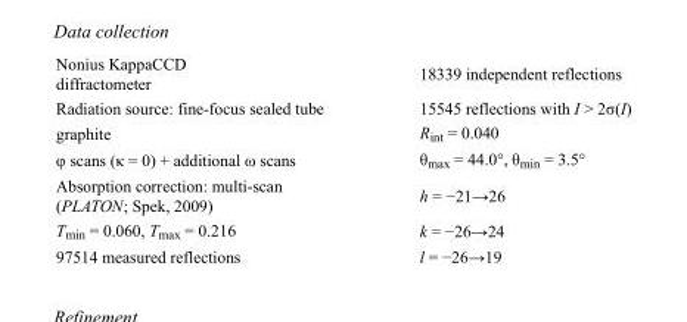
<table><tbody><tr><td>Nonius KappaCCD diffractometer</td><td>18339 independent reflections</td></tr><tr><td>Radiation source: fine-focus sealed tube</td><td>15545 reflections with I &gt; 2σ(I)</td></tr><tr><td>graphite</td><td>R<sub>int</sub> = 0.040</td></tr><tr><td>φ scans (κ = 0) + additional ω scans</td><td>θ<sub>max</sub> = 44.0°, θ<sub>min</sub> = 3.5°</td></tr><tr><td>Absorption correction: multi-scan (PLATON; Spek, 2009)</td><td>h = −21→26</td></tr><tr><td>T<sub>min</sub> = 0.060, T<sub>max</sub> = 0.216</td><td>k = −26→24</td></tr><tr><td>97514 measured reflections</td><td>l = −26→19</td></tr></tbody></table>